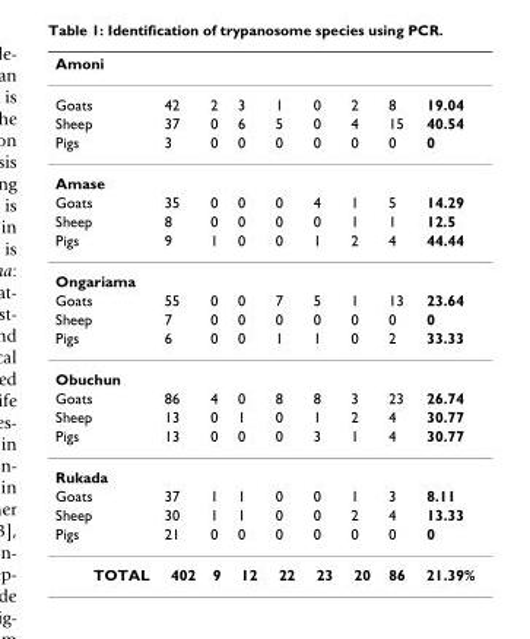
<table><thead><tr><td>Amoni</td><td></td><td></td><td></td><td></td><td></td><td></td><td></td><td></td></tr></thead><tbody><tr><td>Goats</td><td>42</td><td>2</td><td>3</td><td>1</td><td>0</td><td>2</td><td>8</td><td>19.04</td></tr><tr><td>Sheep</td><td>37</td><td>0</td><td>6</td><td>5</td><td>0</td><td>4</td><td>15</td><td>40.54</td></tr><tr><td>Pigs</td><td>3</td><td>0</td><td>0</td><td>0</td><td>0</td><td>0</td><td>0</td><td>0</td></tr><tr><td colspan="9">Amase</td></tr><tr><td>Goats</td><td>35</td><td>0</td><td>0</td><td>0</td><td>4</td><td>1</td><td>5</td><td>14.29</td></tr><tr><td>Sheep</td><td>8</td><td>0</td><td>0</td><td>0</td><td>0</td><td>1</td><td>1</td><td>12.5</td></tr><tr><td>Pigs</td><td>9</td><td>1</td><td>0</td><td>0</td><td>1</td><td>2</td><td>4</td><td>44.44</td></tr><tr><td colspan="9">Ongariama</td></tr><tr><td>Goats</td><td>55</td><td>0</td><td>0</td><td>7</td><td>5</td><td>1</td><td>13</td><td>23.64</td></tr><tr><td>Sheep</td><td>7</td><td>0</td><td>0</td><td>0</td><td>0</td><td>0</td><td>0</td><td>0</td></tr><tr><td>Pigs</td><td>6</td><td>0</td><td>0</td><td>1</td><td>1</td><td>0</td><td>2</td><td>33.33</td></tr><tr><td colspan="9">Obuchun</td></tr><tr><td>Goats</td><td>86</td><td>4</td><td>0</td><td>8</td><td>8</td><td>3</td><td>23</td><td>26.74</td></tr><tr><td>Sheep</td><td>13</td><td>0</td><td>1</td><td>0</td><td>1</td><td>2</td><td>4</td><td>30.77</td></tr><tr><td>Pigs</td><td>13</td><td>0</td><td>0</td><td>0</td><td>3</td><td>1</td><td>4</td><td>30.77</td></tr><tr><td colspan="9">Rukada</td></tr><tr><td>Goats</td><td>37</td><td>1</td><td>1</td><td>0</td><td>0</td><td>1</td><td>3</td><td>8.11</td></tr><tr><td>Sheep</td><td>30</td><td>1</td><td>1</td><td>0</td><td>0</td><td>2</td><td>4</td><td>13.33</td></tr><tr><td>Pigs</td><td>21</td><td>0</td><td>0</td><td>0</td><td>0</td><td>0</td><td>0</td><td>0</td></tr><tr><td>TOTAL</td><td>402</td><td>9</td><td>12</td><td>22</td><td>23</td><td>20</td><td>86</td><td>21.39%</td></tr></tbody></table>